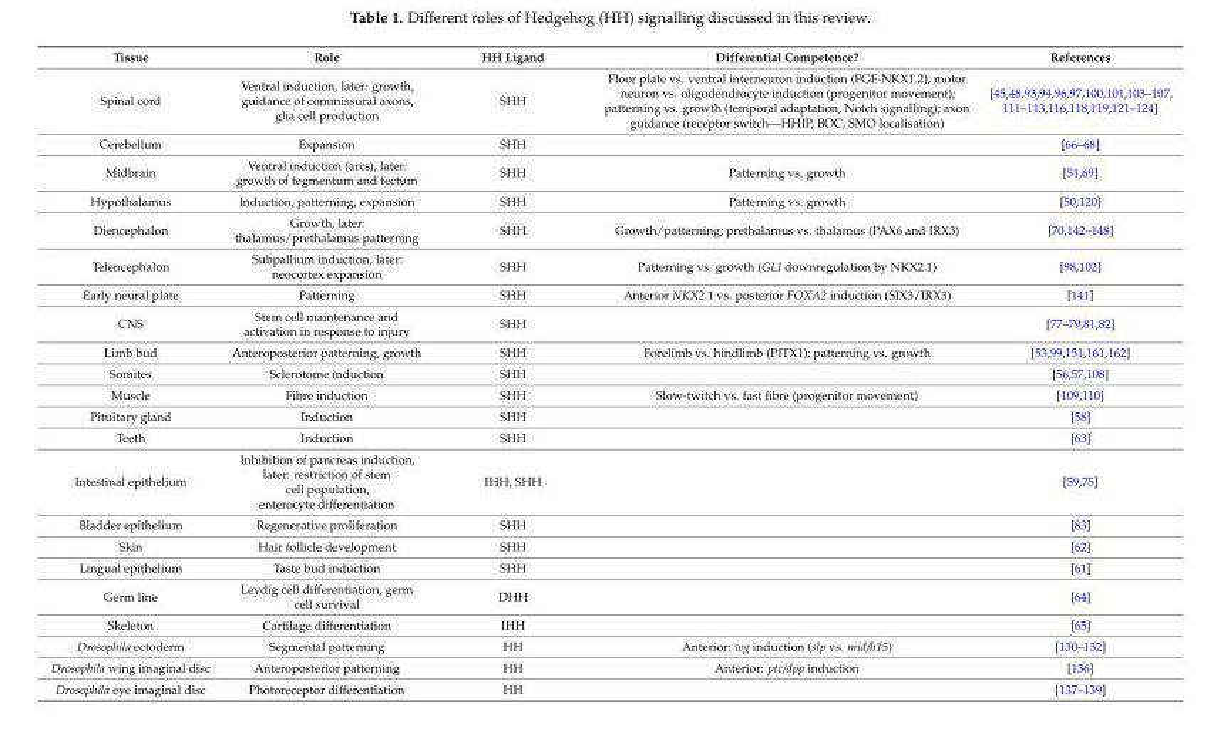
<table><thead><tr><td>Tissue</td><td>Role</td><td>HH Ligand</td><td>Differential Competence?</td><td>References</td></tr></thead><tbody><tr><td>Spinal cord</td><td>Ventral induction, later: growth, guidance of commissural axons, glia cell production</td><td>SHH</td><td>Floor plate vs. ventral interneuron induction (FGF-NKX1.2); motor neuron vs. oligodendrocyte induction (progenitor movement); patterning vs. growth (temporal adaptation, Notch signalling); axon guidance (receptor switch—HHIP, BOC, SMO localisation)</td><td>[45,48,93,94,96,97,100,101,103–107, 111–113,116,118,119,121–124]</td></tr><tr><td>Cerebellum</td><td>Expansion</td><td>SHH</td><td></td><td>[66–68]</td></tr><tr><td>Midbrain</td><td>Ventral induction (arcs), later: growth of tegmentum and tectum</td><td>SHH</td><td>Patterning vs. growth</td><td>[51,69]</td></tr><tr><td>Hypothalamus</td><td>Induction, patterning, expansion</td><td>SHH</td><td>Patterning vs. growth</td><td>[50,120]</td></tr><tr><td>Diencephalon</td><td>Growth, later: thalamus/prethalamus patterning</td><td>SHH</td><td>Growth/patterning; prethalamus vs. thalamus (PAX6 and IRX3)</td><td>[70,142–148]</td></tr><tr><td>Telencephalon</td><td>Subpallium induction, later: neocortex expansion</td><td>SHH</td><td>Patterning vs. growth (GLI downregulation by NKX2.1)</td><td>[98,102]</td></tr><tr><td>Early neural plate</td><td>Patterning</td><td>SHH</td><td>Anterior NKX2.1 vs. posterior FOXA2 induction (SIX3/IRX3)</td><td>[141]</td></tr><tr><td>CNS</td><td>Stem cell maintenance and activation in response to injury</td><td>SHH</td><td></td><td>[77–79,81,82]</td></tr><tr><td>Limb bud</td><td>Anteroposterior patterning, growth</td><td>SHH</td><td>Forelimb vs. hindlimb (PITX1); patterning vs. growth</td><td>[53,99,151,161,162]</td></tr><tr><td>Somites</td><td>Sclerotome induction</td><td>SHH</td><td></td><td>[56,57,108]</td></tr><tr><td>Muscle</td><td>Fibre induction</td><td>SHH</td><td>Slow-twitch vs. fast fibre (progenitor movement)</td><td>[109,110]</td></tr><tr><td>Pituitary gland</td><td>Induction</td><td>SHH</td><td></td><td>[58]</td></tr><tr><td>Teeth</td><td>Induction</td><td>SHH</td><td></td><td>[63]</td></tr><tr><td>Intestinal epithelium</td><td>Inhibition of pancreas induction, later: restriction of stem cell population, enterocyte differentiation</td><td>IHH, SHH</td><td></td><td>[59,75]</td></tr><tr><td>Bladder epithelium</td><td>Regenerative proliferation</td><td>SHH</td><td></td><td>[83]</td></tr><tr><td>Skin</td><td>Hair follicle development</td><td>SHH</td><td></td><td>[62]</td></tr><tr><td>Lingual epithelium</td><td>Taste bud induction</td><td>SHH</td><td></td><td>[61]</td></tr><tr><td>Germ line</td><td>Leydig cell differentiation, germ cell survival</td><td>DHH</td><td></td><td>[64]</td></tr><tr><td>Skeleton</td><td>Cartilage differentiation</td><td>IHH</td><td></td><td>[65]</td></tr><tr><td>Drosophila ectoderm</td><td>Segmental patterning</td><td>HH</td><td>Anterior: wg induction (slp vs. mid/h15)</td><td>[130–132]</td></tr><tr><td>Drosophila wing imaginal disc</td><td>Anteroposterior patterning</td><td>HH</td><td>Anterior: ptc/dpp induction</td><td>[136]</td></tr><tr><td>Drosophila eye imaginal disc</td><td>Photoreceptor differentiation</td><td>HH</td><td></td><td>[137–139]</td></tr></tbody></table>